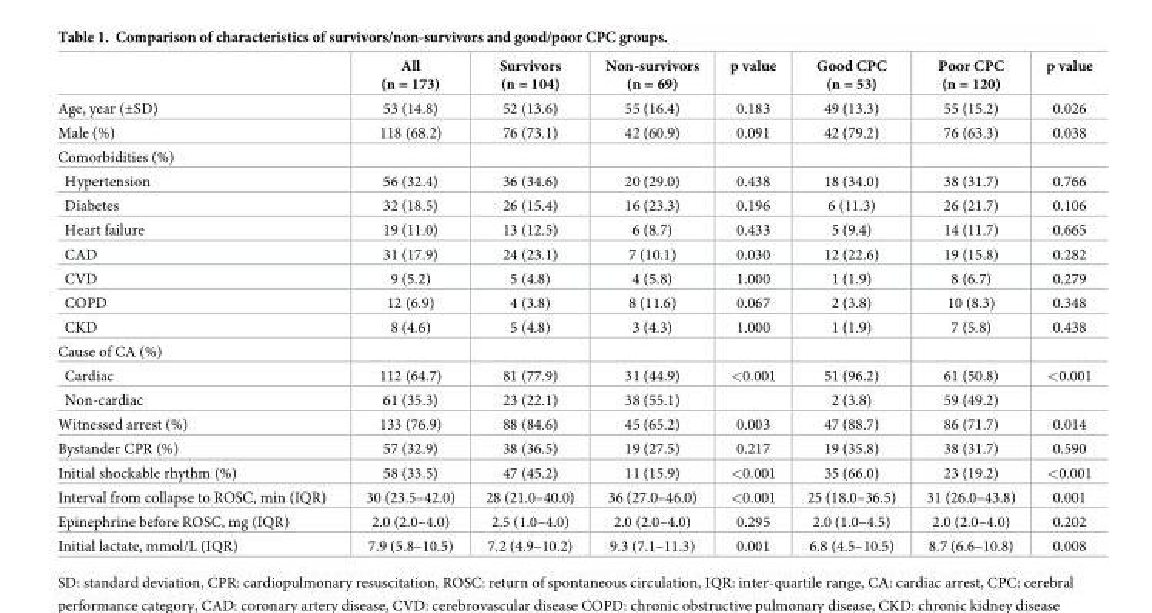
<table><thead><tr><td></td><td>All (n = 173)</td><td>Survivors (n = 104)</td><td>Non-survivors (n = 69)</td><td>p value</td><td>Good CPC (n = 53)</td><td>Poor CPC (n = 120)</td><td>p value</td></tr></thead><tbody><tr><td>Age, year (±SD)</td><td>53 (14.8)</td><td>52 (13.6)</td><td>55 (16.4)</td><td>0.183</td><td>49 (13.3)</td><td>55 (15.2)</td><td>0.026</td></tr><tr><td>Male (%)</td><td>118 (68.2)</td><td>76 (73.1)</td><td>42 (60.9)</td><td>0.091</td><td>42 (79.2)</td><td>76 (63.3)</td><td>0.038</td></tr><tr><td colspan="8">Comorbidities (%)</td></tr><tr><td>Hypertension</td><td>56 (32.4)</td><td>36 (34.6)</td><td>20 (29.0)</td><td>0.438</td><td>18 (34.0)</td><td>38 (31.7)</td><td>0.766</td></tr><tr><td>Diabetes</td><td>32 (18.5)</td><td>26 (15.4)</td><td>16 (23.3)</td><td>0.196</td><td>6 (11.3)</td><td>26 (21.7)</td><td>0.106</td></tr><tr><td>Heart failure</td><td>19 (11.0)</td><td>13 (12.5)</td><td>6 (8.7)</td><td>0.433</td><td>5 (9.4)</td><td>14 (11.7)</td><td>0.665</td></tr><tr><td>CAD</td><td>31 (17.9)</td><td>24 (23.1)</td><td>7 (10.1)</td><td>0.030</td><td>12 (22.6)</td><td>19 (15.8)</td><td>0.282</td></tr><tr><td>CVD</td><td>9 (5.2)</td><td>5 (4.8)</td><td>4 (5.8)</td><td>1.000</td><td>1 (1.9)</td><td>8 (6.7)</td><td>0.279</td></tr><tr><td>COPD</td><td>12 (6.9)</td><td>4 (3.8)</td><td>8 (11.6)</td><td>0.067</td><td>2 (3.8)</td><td>10 (8.3)</td><td>0.348</td></tr><tr><td>CKD</td><td>8 (4.6)</td><td>5 (4.8)</td><td>3 (4.3)</td><td>1.000</td><td>1 (1.9)</td><td>7 (5.8)</td><td>0.438</td></tr><tr><td colspan="8">Cause of CA (%)</td></tr><tr><td>Cardiac</td><td>112 (64.7)</td><td>81 (77.9)</td><td>31 (44.9)</td><td>&lt;0.001</td><td>51 (96.2)</td><td>61 (50.8)</td><td>&lt;0.001</td></tr><tr><td>Non-cardiac</td><td>61 (35.3)</td><td>23 (22.1)</td><td>38 (55.1)</td><td></td><td>2 (3.8)</td><td>59 (49.2)</td><td></td></tr><tr><td>Witnessed arrest (%)</td><td>133 (76.9)</td><td>88 (84.6)</td><td>45 (65.2)</td><td>0.003</td><td>47 (88.7)</td><td>86 (71.7)</td><td>0.014</td></tr><tr><td>Bystander CPR (%)</td><td>57 (32.9)</td><td>38 (36.5)</td><td>19 (27.5)</td><td>0.217</td><td>19 (35.8)</td><td>38 (31.7)</td><td>0.590</td></tr><tr><td>Initial shockable rhythm (%)</td><td>58 (33.5)</td><td>47 (45.2)</td><td>11 (15.9)</td><td>&lt;0.001</td><td>35 (66.0)</td><td>23 (19.2)</td><td>&lt;0.001</td></tr><tr><td>Interval from collapse to ROSC, min (IQR)</td><td>30 (23.5–42.0)</td><td>28 (21.0–40.0)</td><td>36 (27.0–46.0)</td><td>&lt;0.001</td><td>25 (18.0–36.5)</td><td>31 (26.0–43.8)</td><td>0.001</td></tr><tr><td>Epinephrine before ROSC, mg (IQR)</td><td>2.0 (2.0–4.0)</td><td>2.5 (1.0–4.0)</td><td>2.0 (2.0–4.0)</td><td>0.295</td><td>2.0 (1.0–4.5)</td><td>2.0 (2.0–4.0)</td><td>0.202</td></tr><tr><td>Initial lactate, mmol/L (IQR)</td><td>7.9 (5.8–10.5)</td><td>7.2 (4.9–10.2)</td><td>9.3 (7.1–11.3)</td><td>0.001</td><td>6.8 (4.5–10.5)</td><td>8.7 (6.6–10.8)</td><td>0.008</td></tr></tbody></table>